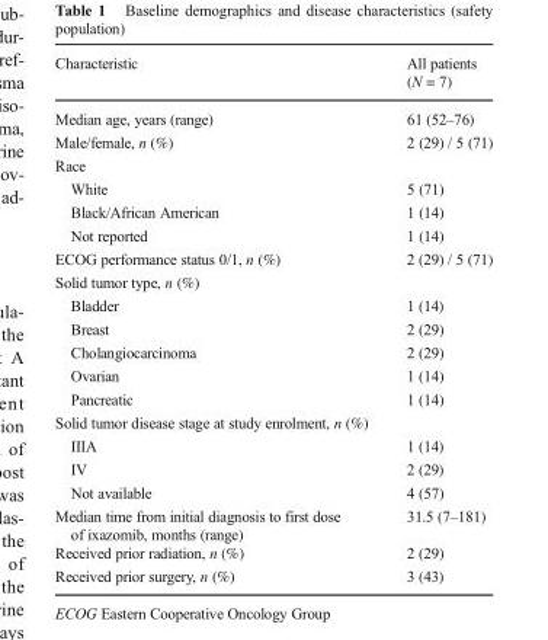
<table><thead><tr><td>Characteristic</td><td>All patients (N = 7)</td></tr></thead><tbody><tr><td>Median age, years (range)</td><td>61 (52–76)</td></tr><tr><td>Male/female, n (%)</td><td>2 (29) / 5 (71)</td></tr><tr><td colspan="2">Race</td></tr><tr><td>White</td><td>5 (71)</td></tr><tr><td>Black/African American</td><td>1 (14)</td></tr><tr><td>Not reported</td><td>1 (14)</td></tr><tr><td>ECOG performance status 0/1, n (%)</td><td>2 (29) / 5 (71)</td></tr><tr><td colspan="2">Solid tumor type, n (%)</td></tr><tr><td>Bladder</td><td>1 (14)</td></tr><tr><td>Breast</td><td>2 (29)</td></tr><tr><td>Cholangiocarcinoma</td><td>2 (29)</td></tr><tr><td>Ovarian</td><td>1 (14)</td></tr><tr><td>Pancreatic</td><td>1 (14)</td></tr><tr><td colspan="2">Solid tumor disease stage at study enrolment, n (%)</td></tr><tr><td>IIIA</td><td>1 (14)</td></tr><tr><td>IV</td><td>2 (29)</td></tr><tr><td>Not available</td><td>4 (57)</td></tr><tr><td>Median time from initial diagnosis to first dose of ixazomib, months (range)</td><td>31.5 (7–181)</td></tr><tr><td>Received prior radiation, n (%)</td><td>2 (29)</td></tr><tr><td>Received prior surgery, n (%)</td><td>3 (43)</td></tr></tbody></table>